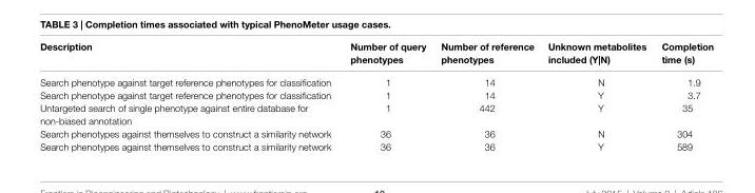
<table><thead><tr><td>Description</td><td>number of query phenotypes</td><td>number of reference phenotypes</td><td>Unknown metabolites included (y|n)</td><td>completion time (s)</td></tr></thead><tbody><tr><td>Search phenotype against target reference phenotypes for classification</td><td>1</td><td>14</td><td>N</td><td>1.9</td></tr><tr><td>Search phenotype against target reference phenotypes for classification</td><td>1</td><td>14</td><td>Y</td><td>3.7</td></tr><tr><td>Untargeted search of single phenotype against entire database for non-biased annotation</td><td>1</td><td>442</td><td>Y</td><td>35</td></tr><tr><td>Search phenotypes against themselves to construct a similarity network</td><td>36</td><td>36</td><td>N</td><td>304</td></tr><tr><td>Search phenotypes against themselves to construct a similarity network</td><td>36</td><td>36</td><td>Y</td><td>589</td></tr></tbody></table>